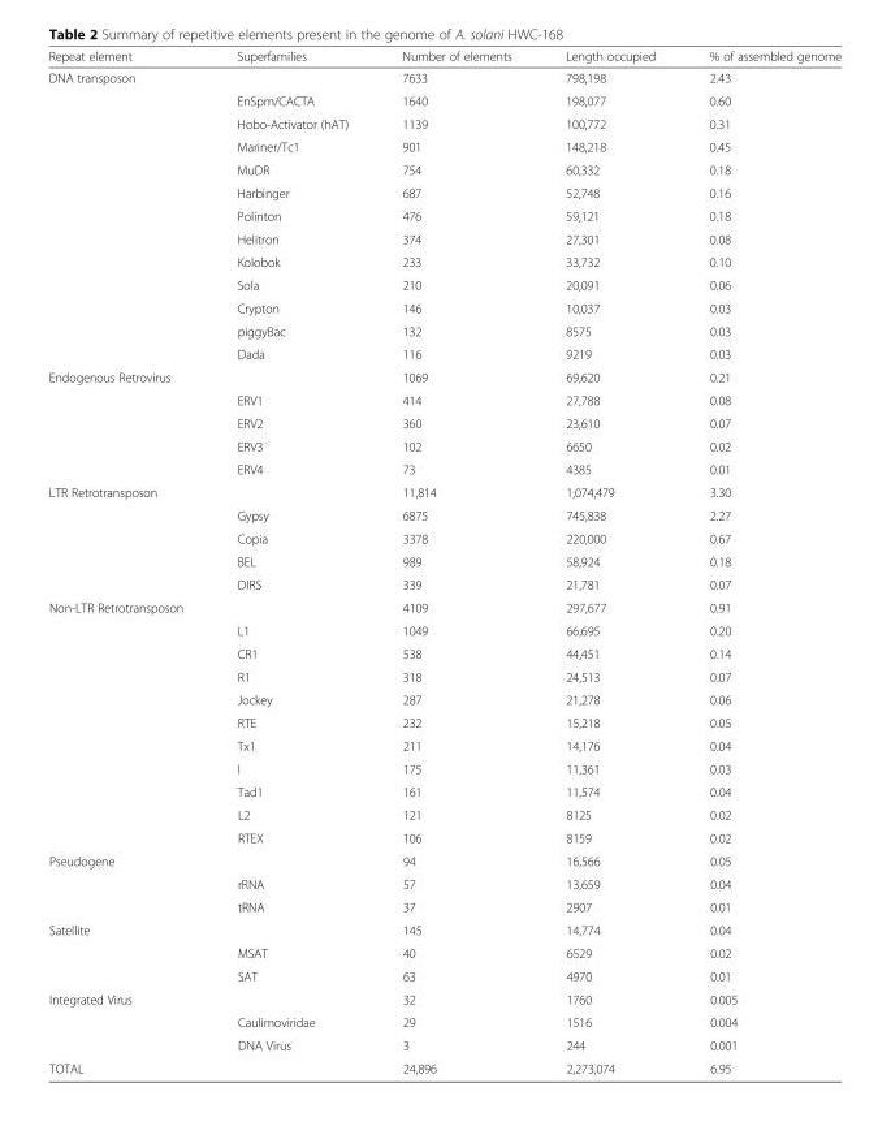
<table><thead><tr><td>Repeat element</td><td>Superfamilies</td><td>Number of elements</td><td>Length occupied</td><td>% of assembled genome</td></tr></thead><tbody><tr><td rowspan="13">DNA transposon</td><td></td><td>7633</td><td>798,198</td><td>2.43</td></tr><tr><td>EnSpm/CACTA</td><td>1640</td><td>198,077</td><td>0.60</td></tr><tr><td>Hobo-Activator (hAT)</td><td>1139</td><td>100,772</td><td>0.31</td></tr><tr><td>Mariner/Tc1</td><td>901</td><td>148,218</td><td>0.45</td></tr><tr><td>MuDR</td><td>754</td><td>60,332</td><td>0.18</td></tr><tr><td>Harbinger</td><td>687</td><td>52,748</td><td>0.16</td></tr><tr><td>Polinton</td><td>476</td><td>59,121</td><td>0.18</td></tr><tr><td>Helitron</td><td>374</td><td>27,301</td><td>0.08</td></tr><tr><td>Kolobok</td><td>233</td><td>33,732</td><td>0.10</td></tr><tr><td>Sola</td><td>210</td><td>20,091</td><td>0.06</td></tr><tr><td>Crypton</td><td>146</td><td>10,037</td><td>0.03</td></tr><tr><td>piggyBac</td><td>132</td><td>8575</td><td>0.03</td></tr><tr><td>Dada</td><td>116</td><td>9219</td><td>0.03</td></tr><tr><td rowspan="5">Endogenous Retrovirus</td><td></td><td>1069</td><td>69,620</td><td>0.21</td></tr><tr><td>ERV1</td><td>414</td><td>27,788</td><td>0.08</td></tr><tr><td>ERV2</td><td>360</td><td>23,610</td><td>0.07</td></tr><tr><td>ERV3</td><td>102</td><td>6650</td><td>0.02</td></tr><tr><td>ERV4</td><td>73</td><td>4385</td><td>0.01</td></tr><tr><td rowspan="5">LTR Retrotransposon</td><td></td><td>11,814</td><td>1,074,479</td><td>3.30</td></tr><tr><td>Gypsy</td><td>6875</td><td>745,838</td><td>2.27</td></tr><tr><td>Copia</td><td>3378</td><td>220,000</td><td>0.67</td></tr><tr><td>BEL</td><td>989</td><td>58,924</td><td>0.18</td></tr><tr><td>DIRS</td><td>339</td><td>21,781</td><td>0.07</td></tr><tr><td rowspan="11">Non-LTR Retrotransposon</td><td></td><td>4109</td><td>297,677</td><td>0.91</td></tr><tr><td>L1</td><td>1049</td><td>66,695</td><td>0.20</td></tr><tr><td>CR1</td><td>538</td><td>44,451</td><td>0.14</td></tr><tr><td>R1</td><td>318</td><td>24,513</td><td>0.07</td></tr><tr><td>Jockey</td><td>287</td><td>21,278</td><td>0.06</td></tr><tr><td>RTE</td><td>232</td><td>15,218</td><td>0.05</td></tr><tr><td>Tx1</td><td>211</td><td>14,176</td><td>0.04</td></tr><tr><td>I</td><td>175</td><td>11,361</td><td>0.03</td></tr><tr><td>Tad1</td><td>161</td><td>11,574</td><td>0.04</td></tr><tr><td>L2</td><td>121</td><td>8125</td><td>0.02</td></tr><tr><td>RTEX</td><td>106</td><td>8159</td><td>0.02</td></tr><tr><td rowspan="3">Pseudogene</td><td></td><td>94</td><td>16,566</td><td>0.05</td></tr><tr><td>rRNA</td><td>57</td><td>13,659</td><td>0.04</td></tr><tr><td>tRNA</td><td>37</td><td>2907</td><td>0.01</td></tr><tr><td rowspan="3">Satellite</td><td></td><td>145</td><td>14,774</td><td>0.04</td></tr><tr><td>MSAT</td><td>40</td><td>6529</td><td>0.02</td></tr><tr><td>SAT</td><td>63</td><td>4970</td><td>0.01</td></tr><tr><td rowspan="3">Integrated Virus</td><td></td><td>32</td><td>1760</td><td>0.005</td></tr><tr><td>Caulimoviridae</td><td>29</td><td>1516</td><td>0.004</td></tr><tr><td>DNA Virus</td><td>3</td><td>244</td><td>0.001</td></tr><tr><td colspan="2">TOTAL</td><td>24,896</td><td>2,273,074</td><td>6.95</td></tr></tbody></table>